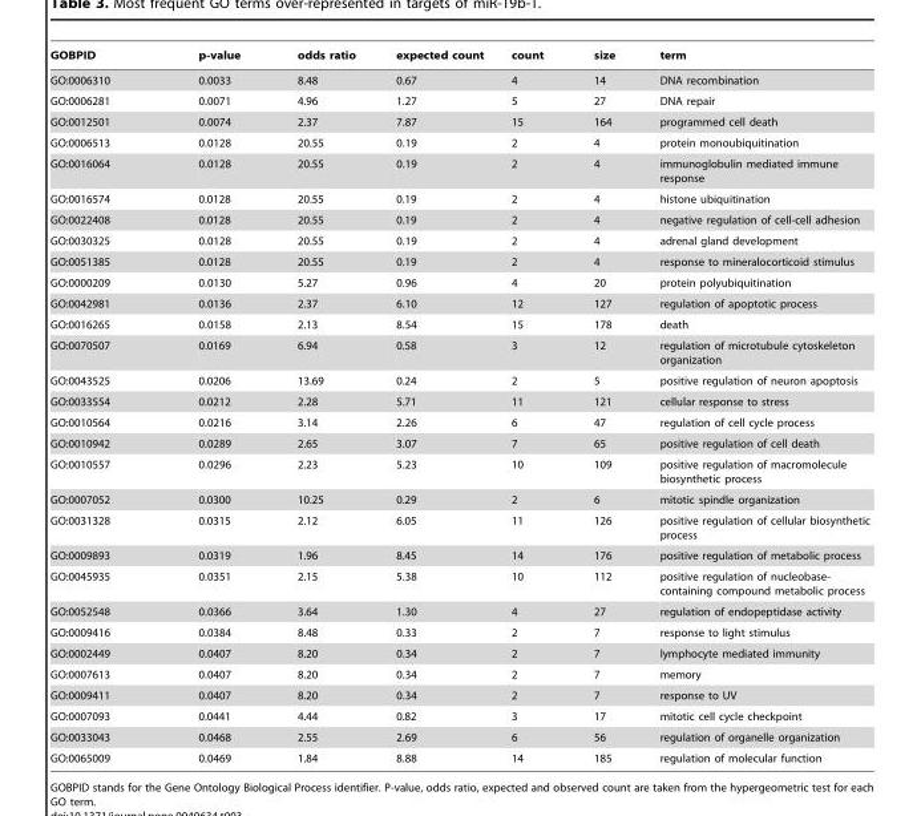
<table><thead><tr><td>GOBPID</td><td>p-value</td><td>odds ratio</td><td>expected count</td><td>count</td><td>size</td><td>term</td></tr></thead><tbody><tr><td>GO:0006310</td><td>0.0033</td><td>8.48</td><td>0.67</td><td>4</td><td>14</td><td>DNA recombination</td></tr><tr><td>GO:0006281</td><td>0.0071</td><td>4.96</td><td>1.27</td><td>5</td><td>27</td><td>DNA repair</td></tr><tr><td>GO:0012501</td><td>0.0074</td><td>2.37</td><td>7.87</td><td>15</td><td>164</td><td>programmed cell death</td></tr><tr><td>GO:0006513</td><td>0.0128</td><td>20.55</td><td>0.19</td><td>2</td><td>4</td><td>protein monoubiquitination</td></tr><tr><td>GO:0016064</td><td>0.0128</td><td>20.55</td><td>0.19</td><td>2</td><td>4</td><td>immunoglobulin mediated immune response</td></tr><tr><td>GO:0016574</td><td>0.0128</td><td>20.55</td><td>0.19</td><td>2</td><td>4</td><td>histone ubiquitination</td></tr><tr><td>GO:0022408</td><td>0.0128</td><td>20.55</td><td>0.19</td><td>2</td><td>4</td><td>negative regulation of cell-cell adhesion</td></tr><tr><td>GO:0030325</td><td>0.0128</td><td>20.55</td><td>0.19</td><td>2</td><td>4</td><td>adrenal gland development</td></tr><tr><td>GO:0051385</td><td>0.0128</td><td>20.55</td><td>0.19</td><td>2</td><td>4</td><td>response to mineralocorticoid stimulus</td></tr><tr><td>GO:0000209</td><td>0.0130</td><td>5.27</td><td>0.96</td><td>4</td><td>20</td><td>protein polyubiquitination</td></tr><tr><td>GO:0042981</td><td>0.0136</td><td>2.37</td><td>6.10</td><td>12</td><td>127</td><td>regulation of apoptotic process</td></tr><tr><td>GO:0016265</td><td>0.0158</td><td>2.13</td><td>8.54</td><td>15</td><td>178</td><td>death</td></tr><tr><td>GO:0070507</td><td>0.0169</td><td>6.94</td><td>0.58</td><td>3</td><td>12</td><td>regulation of microtubule cytoskeleton organization</td></tr><tr><td>GO:0043525</td><td>0.0206</td><td>13.69</td><td>0.24</td><td>2</td><td>5</td><td>positive regulation of neuron apoptosis</td></tr><tr><td>GO:0033554</td><td>0.0212</td><td>2.28</td><td>5.71</td><td>11</td><td>121</td><td>cellular response to stress</td></tr><tr><td>GO:0010564</td><td>0.0216</td><td>3.14</td><td>2.26</td><td>6</td><td>47</td><td>regulation of cell cycle process</td></tr><tr><td>GO:0010942</td><td>0.0289</td><td>2.65</td><td>3.07</td><td>7</td><td>65</td><td>positive regulation of cell death</td></tr><tr><td>GO:0010557</td><td>0.0296</td><td>2.23</td><td>5.23</td><td>10</td><td>109</td><td>positive regulation of macromolecule biosynthetic process</td></tr><tr><td>GO:0007052</td><td>0.0300</td><td>10.25</td><td>0.29</td><td>2</td><td>6</td><td>mitotic spindle organization</td></tr><tr><td>GO:0031328</td><td>0.0315</td><td>2.12</td><td>6.05</td><td>11</td><td>126</td><td>positive regulation of cellular biosynthetic process</td></tr><tr><td>GO:0009893</td><td>0.0319</td><td>1.96</td><td>8.45</td><td>14</td><td>176</td><td>positive regulation of metabolic process</td></tr><tr><td>GO:0045935</td><td>0.0351</td><td>2.15</td><td>5.38</td><td>10</td><td>112</td><td>positive regulation of nucleobase- containing compound metabolic process</td></tr><tr><td>GO:0052548</td><td>0.0366</td><td>3.64</td><td>1.30</td><td>4</td><td>27</td><td>regulation of endopeptidase activity</td></tr><tr><td>GO:0009416</td><td>0.0384</td><td>8.48</td><td>0.33</td><td>2</td><td>7</td><td>response to light stimulus</td></tr><tr><td>GO:0002449</td><td>0.0407</td><td>8.20</td><td>0.34</td><td>2</td><td>7</td><td>lymphocyte mediated immunity</td></tr><tr><td>GO:0007613</td><td>0.0407</td><td>8.20</td><td>0.34</td><td>2</td><td>7</td><td>memory</td></tr><tr><td>GO:0009411</td><td>0.0407</td><td>8.20</td><td>0.34</td><td>2</td><td>7</td><td>response to UV</td></tr><tr><td>GO:0007093</td><td>0.0441</td><td>4.44</td><td>0.82</td><td>3</td><td>17</td><td>mitotic cell cycle checkpoint</td></tr><tr><td>GO:0033043</td><td>0.0468</td><td>2.55</td><td>2.69</td><td>6</td><td>56</td><td>regulation of organelle organization</td></tr><tr><td>GO:0065009</td><td>0.0469</td><td>1.84</td><td>8.88</td><td>14</td><td>185</td><td>regulation of molecular function</td></tr></tbody></table>